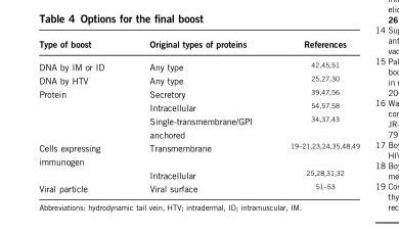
<table><thead><tr><td>Type of boost</td><td>Original types of proteins</td><td>References</td></tr></thead><tbody><tr><td>DNA by IM or ID</td><td>Any type</td><td><sup>42,45,51</sup></td></tr><tr><td>DNA by HTV</td><td>Any type</td><td><sup>25,27,30</sup></td></tr><tr><td rowspan="3">Protein</td><td>Secretory</td><td><sup>39,47,56</sup></td></tr><tr><td>Intracellular</td><td><sup>54,57,58</sup></td></tr><tr><td>Single-transmembrane/GPI anchored</td><td><sup>34,37,43</sup></td></tr><tr><td rowspan="2">Cells expressing immunogen</td><td>Transmembrane</td><td>19–21,23,24,35,48,49</td></tr><tr><td>Intracellular</td><td><sup>25,28,31,32</sup></td></tr><tr><td>Viral particle</td><td>Viral surface</td><td><sup>51–53</sup></td></tr></tbody></table>